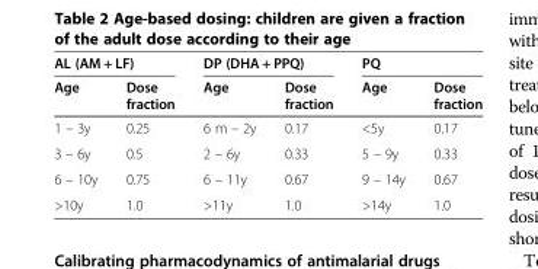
<table><thead><tr><td colspan="2">AL (AM + LF)</td><td colspan="2">DP (DHA + PPQ)</td><td colspan="2">PQ</td></tr><tr><td>Age</td><td>Dose fraction</td><td>Age</td><td>Dose fraction</td><td>Age</td><td>Dose fraction</td></tr></thead><tbody><tr><td>1 – 3y</td><td>0.25</td><td>6 m – 2y</td><td>0.17</td><td>&lt;5y</td><td>0.17</td></tr><tr><td>3 – 6y</td><td>0.5</td><td>2 – 6y</td><td>0.33</td><td>5 – 9y</td><td>0.33</td></tr><tr><td>6 – 10y</td><td>0.75</td><td>6 – 11y</td><td>0.67</td><td>9 – 14y</td><td>0.67</td></tr><tr><td>&gt;10y</td><td>1.0</td><td>&gt;11y</td><td>1.0</td><td>&gt;14y</td><td>1.0</td></tr></tbody></table>